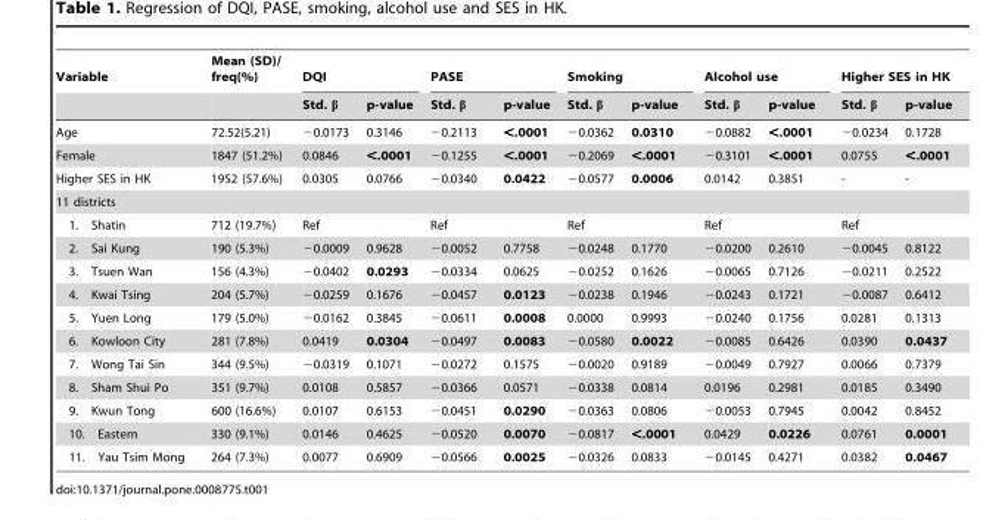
<table><thead><tr><td rowspan="2">Variable</td><td rowspan="2">Mean (SD)/ freq(%)</td><td colspan="2">DQI</td><td colspan="2">PASE</td><td colspan="2">Smoking</td><td colspan="2">Alcohol use</td><td colspan="2">Higher SES in HK</td></tr><tr><td>Std. β</td><td>p-value</td><td>Std. β</td><td>p-value</td><td>Std. β</td><td>p-value</td><td>Std. β</td><td>p-value</td><td>Std. β</td><td>p-value</td></tr></thead><tbody><tr><td>Age</td><td>72.52(5.21)</td><td>−0.0173</td><td>0.3146</td><td>−0.2113</td><td>&lt;.0001</td><td>−0.0362</td><td>0.0310</td><td>−0.0882</td><td>&lt;.0001</td><td>−0.0234</td><td>0.1728</td></tr><tr><td>Female</td><td>1847 (51.2%)</td><td>0.0846</td><td>&lt;.0001</td><td>−0.1255</td><td>&lt;.0001</td><td>−0.2069</td><td>&lt;.0001</td><td>−0.3101</td><td>&lt;.0001</td><td>0.0755</td><td>&lt;.0001</td></tr><tr><td>Higher SES in HK</td><td>1952 (57.6%)</td><td>0.0305</td><td>0.0766</td><td>−0.0340</td><td>0.0422</td><td>−0.0577</td><td>0.0006</td><td>0.0142</td><td>0.3851</td><td>-</td><td>-</td></tr><tr><td colspan="12">11 districts</td></tr><tr><td>1. Shatin</td><td>712 (19.7%)</td><td>Ref</td><td></td><td>Ref</td><td></td><td>Ref</td><td></td><td>Ref</td><td></td><td>Ref</td><td></td></tr><tr><td>2. Sai Kung</td><td>190 (5.3%)</td><td>−0.0009</td><td>0.9628</td><td>−0.0052</td><td>0.7758</td><td>−0.0248</td><td>0.1770</td><td>−0.0200</td><td>0.2610</td><td>−0.0045</td><td>0.8122</td></tr><tr><td>3. Tsuen Wan</td><td>156 (4.3%)</td><td>−0.0402</td><td>0.0293</td><td>−0.0334</td><td>0.0625</td><td>−0.0252</td><td>0.1626</td><td>−0.0065</td><td>0.7126</td><td>−0.0211</td><td>0.2522</td></tr><tr><td>4. Kwai Tsing</td><td>204 (5.7%)</td><td>−0.0259</td><td>0.1676</td><td>−0.0457</td><td>0.0123</td><td>−0.0238</td><td>0.1946</td><td>−0.0243</td><td>0.1721</td><td>−0.0087</td><td>0.6412</td></tr><tr><td>5. Yuen Long</td><td>179 (5.0%)</td><td>−0.0162</td><td>0.3845</td><td>−0.0611</td><td>0.0008</td><td>0.0000</td><td>0.9993</td><td>−0.0240</td><td>0.1756</td><td>0.0281</td><td>0.1313</td></tr><tr><td>6. Kowloon City</td><td>281 (7.8%)</td><td>0.0419</td><td>0.0304</td><td>−0.0497</td><td>0.0083</td><td>−0.0580</td><td>0.0022</td><td>−0.0085</td><td>0.6426</td><td>0.0390</td><td>0.0437</td></tr><tr><td>7. Wong Tai Sin</td><td>344 (9.5%)</td><td>−0.0319</td><td>0.1071</td><td>−0.0272</td><td>0.1575</td><td>−0.0020</td><td>0.9189</td><td>−0.0049</td><td>0.7927</td><td>0.0066</td><td>0.7379</td></tr><tr><td>8. Sham Shui Po</td><td>351 (9.7%)</td><td>0.0108</td><td>0.5857</td><td>−0.0366</td><td>0.0571</td><td>−0.0338</td><td>0.0814</td><td>0.0196</td><td>0.2981</td><td>0.0185</td><td>0.3490</td></tr><tr><td>9. Kwun Tong</td><td>600 (16.6%)</td><td>0.0107</td><td>0.6153</td><td>−0.0451</td><td>0.0290</td><td>−0.0363</td><td>0.0806</td><td>−0.0053</td><td>0.7945</td><td>0.0042</td><td>0.8452</td></tr><tr><td>10. Eastern</td><td>330 (9.1%)</td><td>0.0146</td><td>0.4625</td><td>−0.0520</td><td>0.0070</td><td>−0.0817</td><td>&lt;.0001</td><td>0.0429</td><td>0.0226</td><td>0.0761</td><td>0.0001</td></tr><tr><td>11. Yau Tsim Mong</td><td>264 (7.3%)</td><td>0.0077</td><td>0.6909</td><td>−0.0566</td><td>0.0025</td><td>−0.0326</td><td>0.0833</td><td>−0.0145</td><td>0.4271</td><td>0.0382</td><td>0.0467</td></tr></tbody></table>